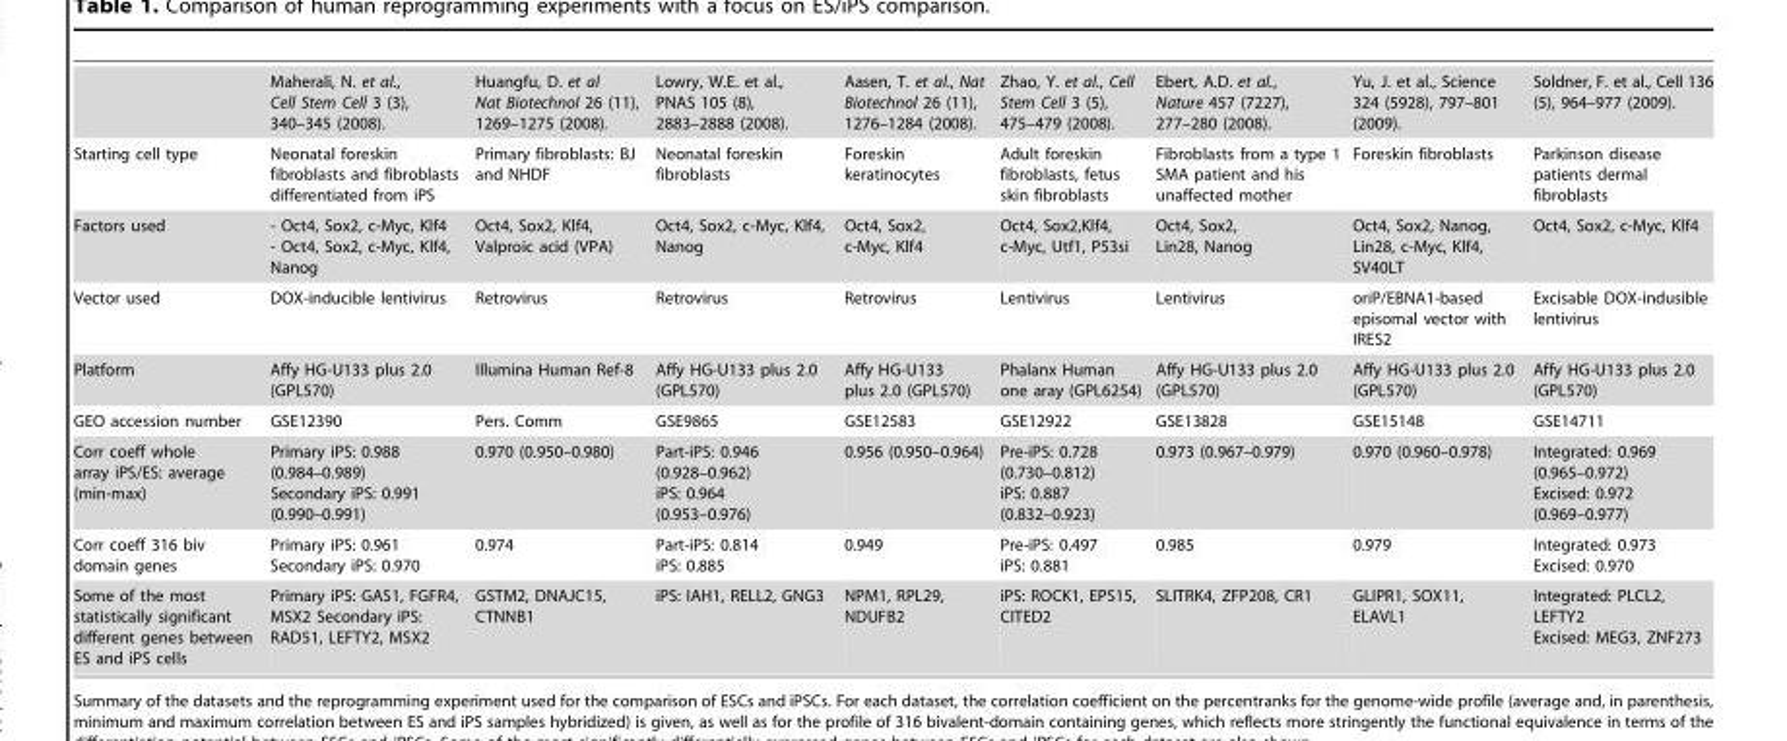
<table><thead><tr><td></td><td>Maherali, N. et al., Cell Stem Cell 3 (3), 340–345 (2008).</td><td>Huangfu, D. et al Nat Biotechnol 26 (11), 1269–1275 (2008).</td><td>Lowry, W.E. et al., PNAS 105 (8), 2883–2888 (2008).</td><td>Aasen, T. et al., Nat Biotechnol 26 (11), 1276–1284 (2008).</td><td>Zhao, Y. et al., Cell Stem Cell 3 (5), 475–479 (2008).</td><td>Ebert, A.D. et al., Nature 457 (7227), 277–280 (2008).</td><td>Yu, J. et al., Science 324 (5928), 797–801 (2009).</td><td>Soldner, F. et al., Cell 136 (5), 964–977 (2009).</td></tr></thead><tbody><tr><td>Starting cell type</td><td>Neonatal foreskin fibroblasts and fibroblasts differentiated from iPS</td><td>Primary fibroblasts: BJ and NHDF</td><td>Neonatal foreskin fibroblasts</td><td>Foreskin keratinocytes</td><td>Adult foreskin fibroblasts, fetus skin fibroblasts</td><td>Fibroblasts from a type 1 SMA patient and his unaffected mother</td><td>Foreskin fibroblasts</td><td>Parkinson disease patients dermal fibroblasts</td></tr><tr><td>Factors used</td><td>- Oct4, Sox2, c-Myc, Klf4 - Oct4, Sox2, c-Myc, Klf4, Nanog</td><td>Oct4, Sox2, Klf4, Valproic acid (VPA)</td><td>Oct4, Sox2, c-Myc, Klf4, Nanog</td><td>Oct4, Sox2, c-Myc, Klf4</td><td>Oct4, Sox2,Klf4, c-Myc, Utf1, P53si</td><td>Oct4, Sox2, Lin28, Nanog</td><td>Oct4, Sox2, Nanog, Lin28, c-Myc, Klf4, SV40LT</td><td>Oct4, Sox2, c-Myc, Klf4</td></tr><tr><td>Vector used</td><td>DOX-inducible lentivirus</td><td>Retrovirus</td><td>Retrovirus</td><td>Retrovirus</td><td>Lentivirus</td><td>Lentivirus</td><td>oriP/EBNA1-based episomal vector with IRES2</td><td>Excisable DOX-indusible lentivirus</td></tr><tr><td>Platform</td><td>Affy HG-U133 plus 2.0 (GPL570)</td><td>Illumina Human Ref-8</td><td>Affy HG-U133 plus 2.0 (GPL570)</td><td>Affy HG-U133 plus 2.0 (GPL570)</td><td>Phalanx Human one aray (GPL6254)</td><td>Affy HG-U133 plus 2.0 (GPL570)</td><td>Affy HG-U133 plus 2.0 (GPL570)</td><td>Affy HG-U133 plus 2.0 (GPL570)</td></tr><tr><td>GEO accession number</td><td>GSE12390</td><td>Pers. Comm</td><td>GSE9865</td><td>GSE12583</td><td>GSE12922</td><td>GSE13828</td><td>GSE15148</td><td>GSE14711</td></tr><tr><td>Corr coeff whole array iPS/ES: average (min-max)</td><td>Primary iPS: 0.988 (0.984–0.989) Secondary iPS: 0.991 (0.990–0.991)</td><td>0.970 (0.950–0.980)</td><td>Part-iPS: 0.946 (0.928–0.962) iPS: 0.964 (0.953–0.976)</td><td>0.956 (0.950–0.964)</td><td>Pre-iPS: 0.728 (0.730–0.812) iPS: 0.887 (0.832–0.923)</td><td>0.973 (0.967–0.979)</td><td>0.970 (0.960–0.978)</td><td>Integrated: 0.969 (0.965–0.972) Excised: 0.972 (0.969–0.977)</td></tr><tr><td>Corr coeff 316 biv domain genes</td><td>Primary iPS: 0.961 Secondary iPS: 0.970</td><td>0.974</td><td>Part-iPS: 0.814 iPS: 0.885</td><td>0.949</td><td>Pre-iPS: 0.497 iPS: 0.881</td><td>0.985</td><td>0.979</td><td>Integrated: 0.973 Excised: 0.970</td></tr><tr><td>Some of the most statistically significant different genes between ES and iPS cells</td><td>Primary iPS: GAS1, FGFR4, MSX2 Secondary iPS: RAD51, LEFTY2, MSX2</td><td>GSTM2, DNAJC15, CTNNB1</td><td>iPS: IAH1, RELL2, GNG3</td><td>NPM1, RPL29, NDUFB2</td><td>iPS: ROCK1, EPS15, CITED2</td><td>SLITRK4, ZFP208, CR1</td><td>GLIPR1, SOX11, ELAVL1</td><td>Integrated: PLCL2, LEFTY2 Excised: MEG3, ZNF273</td></tr></tbody></table>